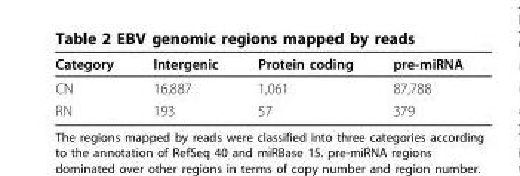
<table><thead><tr><td>Category</td><td>Intergenic</td><td>Protein coding</td><td>pre-miRNA</td></tr></thead><tbody><tr><td>CN</td><td>16,887</td><td>1,061</td><td>87,788</td></tr><tr><td>RN</td><td>193</td><td>57</td><td>379</td></tr></tbody></table>